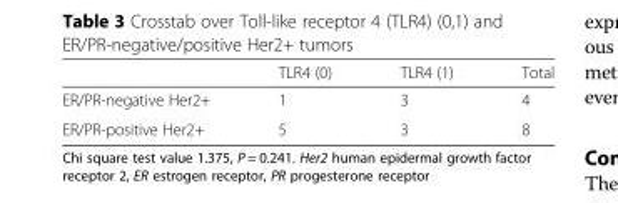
<table><thead><tr><td></td><td>TLR4 (0)</td><td>TLR4 (1)</td><td>Total</td></tr></thead><tbody><tr><td>ER/PR-negative Her2+</td><td>1</td><td>3</td><td>4</td></tr><tr><td>ER/PR-positive Her2+</td><td>5</td><td>3</td><td>8</td></tr></tbody></table>